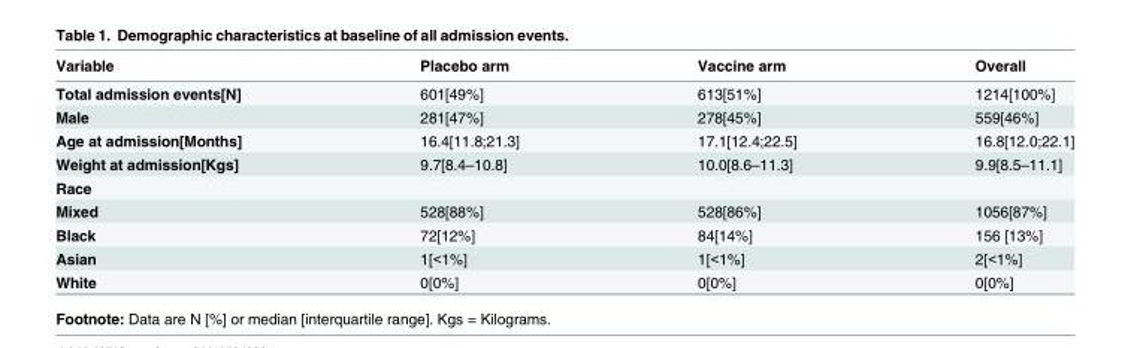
<table><thead><tr><td>Variable</td><td>Placebo arm</td><td>Vaccine arm</td><td>Overall</td></tr></thead><tbody><tr><td>Total admission events[N]</td><td>601[49%]</td><td>613[51%]</td><td>1214[100%]</td></tr><tr><td>Male</td><td>281[47%]</td><td>278[45%]</td><td>559[46%]</td></tr><tr><td>Age at admission[Months]</td><td>16.4[11.8;21.3]</td><td>17.1[12.4;22.5]</td><td>16.8[12.0;22.1]</td></tr><tr><td>Weight at admission[Kgs]</td><td>9.7[8.4–10.8]</td><td>10.0[8.6–11.3]</td><td>9.9[8.5–11.1]</td></tr><tr><td colspan="4">Race</td></tr><tr><td>Mixed</td><td>528[88%]</td><td>528[86%]</td><td>1056[87%]</td></tr><tr><td>Black</td><td>72[12%]</td><td>84[14%]</td><td>156 [13%]</td></tr><tr><td>Asian</td><td>1[&lt;1%]</td><td>1[&lt;1%]</td><td>2[&lt;1%]</td></tr><tr><td>White</td><td>0[0%]</td><td>0[0%]</td><td>0[0%]</td></tr></tbody></table>